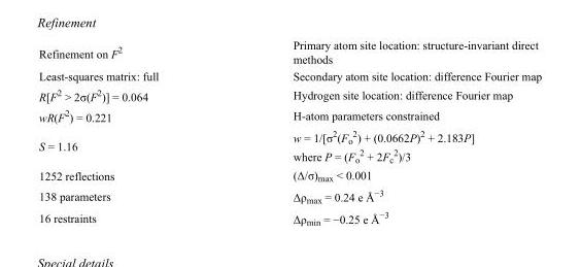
<table><tbody><tr><td>Refinement on F<sup>2</sup></td><td>Primary atom site location: structure-invariant direct methods</td></tr><tr><td>Least-squares matrix: full</td><td>Secondary atom site location: difference Fourier map</td></tr><tr><td>R[F<sup>2</sup> &gt; 2σ(F<sup>2</sup>)] = 0.064</td><td>Hydrogen site location: difference Fourier map</td></tr><tr><td>wR(F<sup>2</sup>) = 0.221</td><td>H-atom parameters constrained</td></tr><tr><td>S = 1.16</td><td>w = 1/[σ<sup>2</sup>(F<sub>o</sub> <sup>2</sup>) + (0.0662P)<sup>2</sup> + 2.183P] where P = (F<sub>o</sub> <sup>2</sup> + 2F<sub>c</sub> <sup>2</sup>)/3</td></tr><tr><td>1252 reflections</td><td>(Δ/σ)<sub>max</sub> &lt; 0.001</td></tr><tr><td>138 parameters</td><td>Δρ<sub>max</sub> = 0.24 e Å<sup>−3</sup></td></tr><tr><td>16 restraints</td><td>Δρ<sub>min</sub> = −0.25 e Å<sup>−3</sup></td></tr></tbody></table>